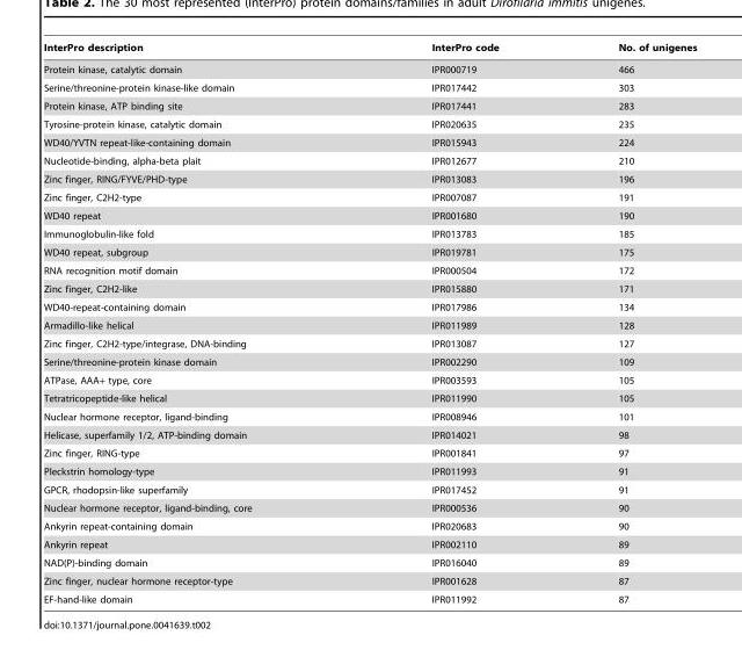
<table><thead><tr><td>InterPro description</td><td>InterPro code</td><td>No. of unigenes</td></tr></thead><tbody><tr><td>Protein kinase, catalytic domain</td><td>IPR000719</td><td>466</td></tr><tr><td>Serine/threonine-protein kinase-like domain</td><td>IPR017442</td><td>303</td></tr><tr><td>Protein kinase, ATP binding site</td><td>IPR017441</td><td>283</td></tr><tr><td>Tyrosine-protein kinase, catalytic domain</td><td>IPR020635</td><td>235</td></tr><tr><td>WD40/YVTN repeat-like-containing domain</td><td>IPR015943</td><td>224</td></tr><tr><td>Nucleotide-binding, alpha-beta plait</td><td>IPR012677</td><td>210</td></tr><tr><td>Zinc finger, RING/FYVE/PHD-type</td><td>IPR013083</td><td>196</td></tr><tr><td>Zinc finger, C2H2-type</td><td>IPR007087</td><td>191</td></tr><tr><td>WD40 repeat</td><td>IPR001680</td><td>190</td></tr><tr><td>Immunoglobulin-like fold</td><td>IPR013783</td><td>185</td></tr><tr><td>WD40 repeat, subgroup</td><td>IPR019781</td><td>175</td></tr><tr><td>RNA recognition motif domain</td><td>IPR000504</td><td>172</td></tr><tr><td>Zinc finger, C2H2-like</td><td>IPR015880</td><td>171</td></tr><tr><td>WD40-repeat-containing domain</td><td>IPR017986</td><td>134</td></tr><tr><td>Armadillo-like helical</td><td>IPR011989</td><td>128</td></tr><tr><td>Zinc finger, C2H2-type/integrase, DNA-binding</td><td>IPR013087</td><td>127</td></tr><tr><td>Serine/threonine-protein kinase domain</td><td>IPR002290</td><td>109</td></tr><tr><td>ATPase, AAA+ type, core</td><td>IPR003593</td><td>105</td></tr><tr><td>Tetratricopeptide-like helical</td><td>IPR011990</td><td>105</td></tr><tr><td>Nuclear hormone receptor, ligand-binding</td><td>IPR008946</td><td>101</td></tr><tr><td>Helicase, superfamily 1/2, ATP-binding domain</td><td>IPR014021</td><td>98</td></tr><tr><td>Zinc finger, RING-type</td><td>IPR001841</td><td>97</td></tr><tr><td>Pleckstrin homology-type</td><td>IPR011993</td><td>91</td></tr><tr><td>GPCR, rhodopsin-like superfamily</td><td>IPR017452</td><td>91</td></tr><tr><td>Nuclear hormone receptor, ligand-binding, core</td><td>IPR000536</td><td>90</td></tr><tr><td>Ankyrin repeat-containing domain</td><td>IPR020683</td><td>90</td></tr><tr><td>Ankyrin repeat</td><td>IPR002110</td><td>89</td></tr><tr><td>NAD(P)-binding domain</td><td>IPR016040</td><td>89</td></tr><tr><td>Zinc finger, nuclear hormone receptor-type</td><td>IPR001628</td><td>87</td></tr><tr><td>EF-hand-like domain</td><td>IPR011992</td><td>87</td></tr></tbody></table>